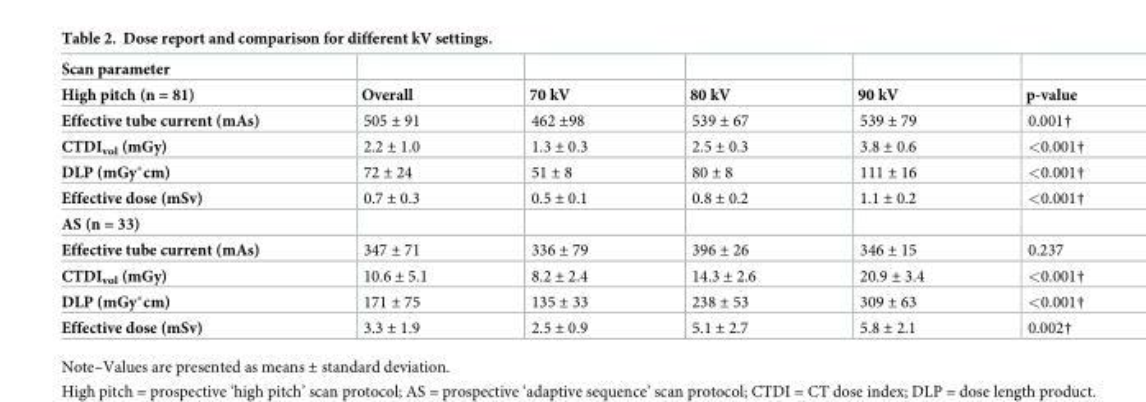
<table><thead><tr><td rowspan="2">Scan parameter High pitch (n = 81)</td><td rowspan="2">Overall</td><td rowspan="2">70 kV</td><td rowspan="2">80 kV</td><td rowspan="2">90 kV</td><td rowspan="2">p-value</td></tr><tr></tr></thead><tbody><tr><td>Effective tube current (mAs)</td><td>505 ± 91</td><td>462 ±98</td><td>539 ± 67</td><td>539 ± 79</td><td>0.001†</td></tr><tr><td>CTDI<sub>vol</sub> (mGy)</td><td>2.2 ± 1.0</td><td>1.3 ± 0.3</td><td>2.5 ± 0.3</td><td>3.8 ± 0.6</td><td>&lt;0.001†</td></tr><tr><td>DLP (mGy*cm)</td><td>72 ± 24</td><td>51 ± 8</td><td>80 ± 8</td><td>111 ± 16</td><td>&lt;0.001†</td></tr><tr><td>Effective dose (mSv)</td><td>0.7 ± 0.3</td><td>0.5 ± 0.1</td><td>0.8 ± 0.2</td><td>1.1 ± 0.2</td><td>&lt;0.001†</td></tr><tr><td colspan="6">AS (n = 33)</td></tr><tr><td>Effective tube current (mAs)</td><td>347 ± 71</td><td>336 ± 79</td><td>396 ± 26</td><td>346 ± 15</td><td>0.237</td></tr><tr><td>CTDI<sub>vol</sub> (mGy)</td><td>10.6 ± 5.1</td><td>8.2 ± 2.4</td><td>14.3 ± 2.6</td><td>20.9 ± 3.4</td><td>&lt;0.001†</td></tr><tr><td>DLP (mGy*cm)</td><td>171 ± 75</td><td>135 ± 33</td><td>238 ± 53</td><td>309 ± 63</td><td>&lt;0.001†</td></tr><tr><td>Effective dose (mSv)</td><td>3.3 ± 1.9</td><td>2.5 ± 0.9</td><td>5.1 ± 2.7</td><td>5.8 ± 2.1</td><td>0.002†</td></tr></tbody></table>